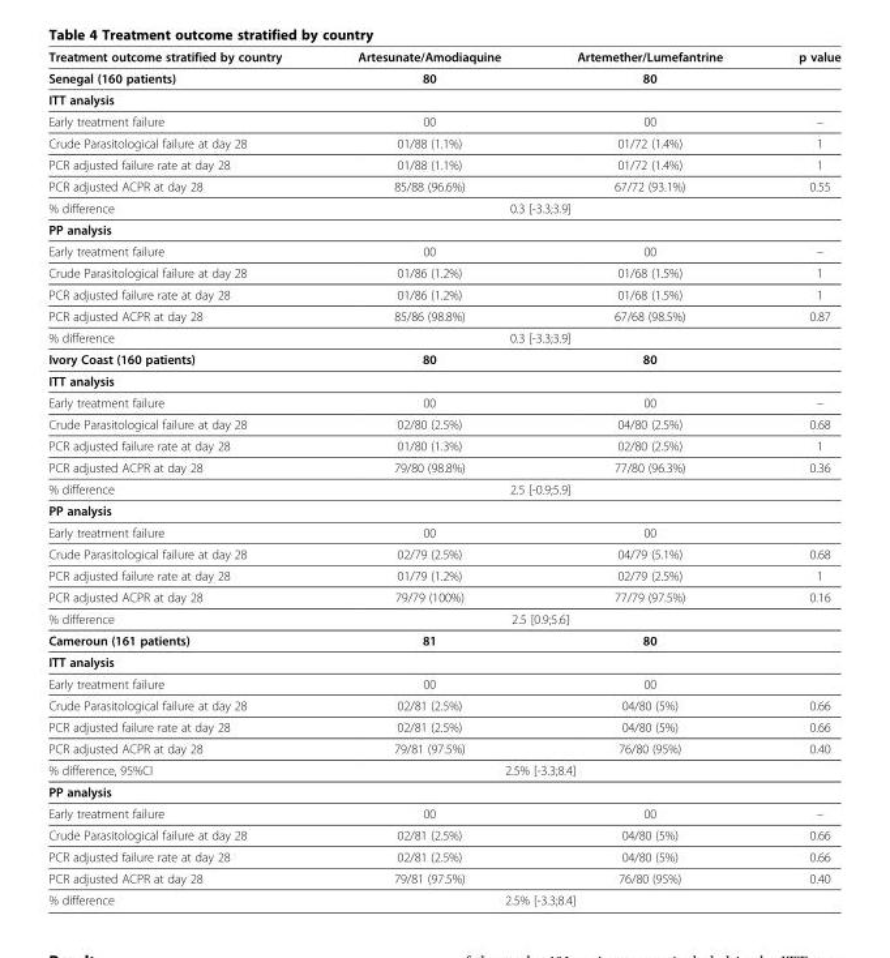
<table><thead><tr><td>Treatment outcome stratified by country</td><td>Artesunate/Amodiaquine</td><td>Artemether/Lumefantrine</td><td>p value</td></tr></thead><tbody><tr><td>Senegal (160 patients)</td><td>80</td><td>80</td><td></td></tr><tr><td colspan="4">ITT analysis</td></tr><tr><td>Early treatment failure</td><td>00</td><td>00</td><td>–</td></tr><tr><td>Crude Parasitological failure at day 28</td><td>01/88 (1.1%)</td><td>01/72 (1.4%)</td><td>1</td></tr><tr><td>PCR adjusted failure rate at day 28</td><td>01/88 (1.1%)</td><td>01/72 (1.4%)</td><td>1</td></tr><tr><td>PCR adjusted ACPR at day 28</td><td>85/88 (96.6%)</td><td>67/72 (93.1%)</td><td>0.55</td></tr><tr><td>% difference</td><td colspan="2">0.3 [-3.3;3.9]</td><td></td></tr><tr><td colspan="4">PP analysis</td></tr><tr><td>Early treatment failure</td><td>00</td><td>00</td><td>–</td></tr><tr><td>Crude Parasitological failure at day 28</td><td>01/86 (1.2%)</td><td>01/68 (1.5%)</td><td>1</td></tr><tr><td>PCR adjusted failure rate at day 28</td><td>01/86 (1.2%)</td><td>01/68 (1.5%)</td><td>1</td></tr><tr><td>PCR adjusted ACPR at day 28</td><td>85/86 (98.8%)</td><td>67/68 (98.5%)</td><td>0.87</td></tr><tr><td>% difference</td><td colspan="2">0.3 [-3.3;3.9]</td><td></td></tr><tr><td>Ivory Coast (160 patients)</td><td>80</td><td>80</td><td></td></tr><tr><td colspan="4">ITT analysis</td></tr><tr><td>Early treatment failure</td><td>00</td><td>00</td><td>–</td></tr><tr><td>Crude Parasitological failure at day 28</td><td>02/80 (2.5%)</td><td>04/80 (2.5%)</td><td>0.68</td></tr><tr><td>PCR adjusted failure rate at day 28</td><td>01/80 (1.3%)</td><td>02/80 (2.5%)</td><td>1</td></tr><tr><td>PCR adjusted ACPR at day 28</td><td>79/80 (98.8%)</td><td>77/80 (96.3%)</td><td>0.36</td></tr><tr><td>% difference</td><td colspan="2">2.5 [-0.9;5.9]</td><td></td></tr><tr><td colspan="4">PP analysis</td></tr><tr><td>Early treatment failure</td><td>00</td><td>00</td><td></td></tr><tr><td>Crude Parasitological failure at day 28</td><td>02/79 (2.5%)</td><td>04/79 (5.1%)</td><td>0.68</td></tr><tr><td>PCR adjusted failure rate at day 28</td><td>01/79 (1.2%)</td><td>02/79 (2.5%)</td><td>1</td></tr><tr><td>PCR adjusted ACPR at day 28</td><td>79/79 (100%)</td><td>77/79 (97.5%)</td><td>0.16</td></tr><tr><td>% difference</td><td colspan="2">2.5 [0.9;5.6]</td><td></td></tr><tr><td>Cameroun (161 patients)</td><td>81</td><td>80</td><td></td></tr><tr><td colspan="4">ITT analysis</td></tr><tr><td>Early treatment failure</td><td>00</td><td>00</td><td></td></tr><tr><td>Crude Parasitological failure at day 28</td><td>02/81 (2.5%)</td><td>04/80 (5%)</td><td>0.66</td></tr><tr><td>PCR adjusted failure rate at day 28</td><td>02/81 (2.5%)</td><td>04/80 (5%)</td><td>0.66</td></tr><tr><td>PCR adjusted ACPR at day 28</td><td>79/81 (97.5%)</td><td>76/80 (95%)</td><td>0.40</td></tr><tr><td>% difference, 95%CI</td><td colspan="2">2.5% [-3.3;8.4]</td><td></td></tr><tr><td colspan="4">PP analysis</td></tr><tr><td>Early treatment failure</td><td>00</td><td>00</td><td>–</td></tr><tr><td>Crude Parasitological failure at day 28</td><td>02/81 (2.5%)</td><td>04/80 (5%)</td><td>0.66</td></tr><tr><td>PCR adjusted failure rate at day 28</td><td>02/81 (2.5%)</td><td>04/80 (5%)</td><td>0.66</td></tr><tr><td>PCR adjusted ACPR at day 28</td><td>79/81 (97.5%)</td><td>76/80 (95%)</td><td>0.40</td></tr><tr><td>% difference</td><td colspan="2">2.5% [-3.3;8.4]</td><td></td></tr></tbody></table>